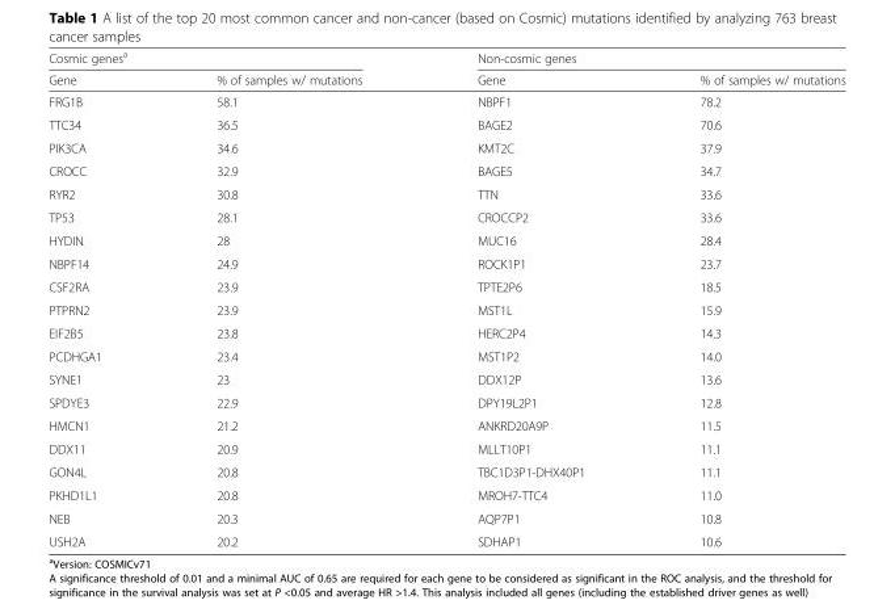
<table><thead><tr><td colspan="2">Cosmic genes<sup>a</sup></td><td colspan="2">Non-cosmic genes</td></tr><tr><td>Gene</td><td>% of samples w/ mutations</td><td>Gene</td><td>% of samples w/ mutations</td></tr></thead><tbody><tr><td>FRG1B</td><td>58.1</td><td>NBPF1</td><td>78.2</td></tr><tr><td>TTC34</td><td>36.5</td><td>BAGE2</td><td>70.6</td></tr><tr><td>PIK3CA</td><td>34.6</td><td>KMT2C</td><td>37.9</td></tr><tr><td>CROCC</td><td>32.9</td><td>BAGE5</td><td>34.7</td></tr><tr><td>RYR2</td><td>30.8</td><td>TTN</td><td>33.6</td></tr><tr><td>TP53</td><td>28.1</td><td>CROCCP2</td><td>33.6</td></tr><tr><td>HYDIN</td><td>28</td><td>MUC16</td><td>28.4</td></tr><tr><td>NBPF14</td><td>24.9</td><td>ROCK1P1</td><td>23.7</td></tr><tr><td>CSF2RA</td><td>23.9</td><td>TPTE2P6</td><td>18.5</td></tr><tr><td>PTPRN2</td><td>23.9</td><td>MST1L</td><td>15.9</td></tr><tr><td>EIF2B5</td><td>23.8</td><td>HERC2P4</td><td>14.3</td></tr><tr><td>PCDHGA1</td><td>23.4</td><td>MST1P2</td><td>14.0</td></tr><tr><td>SYNE1</td><td>23</td><td>DDX12P</td><td>13.6</td></tr><tr><td>SPDYE3</td><td>22.9</td><td>DPY19L2P1</td><td>12.8</td></tr><tr><td>HMCN1</td><td>21.2</td><td>ANKRD20A9P</td><td>11.5</td></tr><tr><td>DDX11</td><td>20.9</td><td>MLLT10P1</td><td>11.1</td></tr><tr><td>GON4L</td><td>20.8</td><td>TBC1D3P1-DHX40P1</td><td>11.1</td></tr><tr><td>PKHD1L1</td><td>20.8</td><td>MROH7-TTC4</td><td>11.0</td></tr><tr><td>NEB</td><td>20.3</td><td>AQP7P1</td><td>10.8</td></tr><tr><td>USH2A</td><td>20.2</td><td>SDHAP1</td><td>10.6</td></tr></tbody></table>